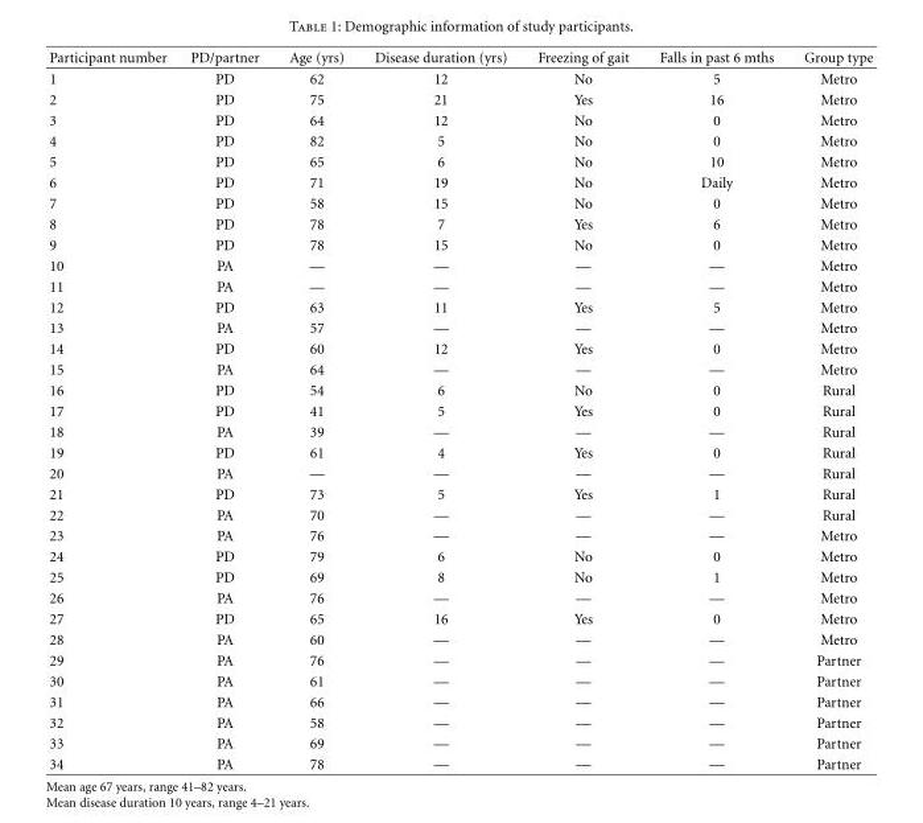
<table><thead><tr><td>Participant number</td><td>PD/partner</td><td>Age (yrs)</td><td>Disease duration (yrs)</td><td>Freezing of gait</td><td>Falls in past 6 mths</td><td>Group type</td></tr></thead><tbody><tr><td>1</td><td>PD</td><td>62</td><td>12</td><td>No</td><td>5</td><td>Metro</td></tr><tr><td>2</td><td>PD</td><td>75</td><td>21</td><td>Yes</td><td>16</td><td>Metro</td></tr><tr><td>3</td><td>PD</td><td>64</td><td>12</td><td>No</td><td>0</td><td>Metro</td></tr><tr><td>4</td><td>PD</td><td>82</td><td>5</td><td>No</td><td>0</td><td>Metro</td></tr><tr><td>5</td><td>PD</td><td>65</td><td>6</td><td>No</td><td>10</td><td>Metro</td></tr><tr><td>6</td><td>PD</td><td>71</td><td>19</td><td>No</td><td>Daily</td><td>Metro</td></tr><tr><td>7</td><td>PD</td><td>58</td><td>15</td><td>No</td><td>0</td><td>Metro</td></tr><tr><td>8</td><td>PD</td><td>78</td><td>7</td><td>Yes</td><td>6</td><td>Metro</td></tr><tr><td>9</td><td>PD</td><td>78</td><td>15</td><td>No</td><td>0</td><td>Metro</td></tr><tr><td>10</td><td>PA</td><td>—</td><td>—</td><td>—</td><td>—</td><td>Metro</td></tr><tr><td>11</td><td>PA</td><td>—</td><td>—</td><td>—</td><td>—</td><td>Metro</td></tr><tr><td>12</td><td>PD</td><td>63</td><td>11</td><td>Yes</td><td>5</td><td>Metro</td></tr><tr><td>13</td><td>PA</td><td>57</td><td>—</td><td>—</td><td>—</td><td>Metro</td></tr><tr><td>14</td><td>PD</td><td>60</td><td>12</td><td>Yes</td><td>0</td><td>Metro</td></tr><tr><td>15</td><td>PA</td><td>64</td><td>—</td><td>—</td><td>—</td><td>Metro</td></tr><tr><td>16</td><td>PD</td><td>54</td><td>6</td><td>No</td><td>0</td><td>Rural</td></tr><tr><td>17</td><td>PD</td><td>41</td><td>5</td><td>Yes</td><td>0</td><td>Rural</td></tr><tr><td>18</td><td>PA</td><td>39</td><td>—</td><td>—</td><td>—</td><td>Rural</td></tr><tr><td>19</td><td>PD</td><td>61</td><td>4</td><td>Yes</td><td>0</td><td>Rural</td></tr><tr><td>20</td><td>PA</td><td>—</td><td>—</td><td>—</td><td>—</td><td>Rural</td></tr><tr><td>21</td><td>PD</td><td>73</td><td>5</td><td>Yes</td><td>1</td><td>Rural</td></tr><tr><td>22</td><td>PA</td><td>70</td><td>—</td><td>—</td><td>—</td><td>Rural</td></tr><tr><td>23</td><td>PA</td><td>76</td><td>—</td><td>—</td><td>—</td><td>Metro</td></tr><tr><td>24</td><td>PD</td><td>79</td><td>6</td><td>No</td><td>0</td><td>Metro</td></tr><tr><td>25</td><td>PD</td><td>69</td><td>8</td><td>No</td><td>1</td><td>Metro</td></tr><tr><td>26</td><td>PA</td><td>76</td><td>—</td><td>—</td><td>—</td><td>Metro</td></tr><tr><td>27</td><td>PD</td><td>65</td><td>16</td><td>Yes</td><td>0</td><td>Metro</td></tr><tr><td>28</td><td>PA</td><td>60</td><td>—</td><td>—</td><td>—</td><td>Metro</td></tr><tr><td>29</td><td>PA</td><td>76</td><td>—</td><td>—</td><td>—</td><td>Partner</td></tr><tr><td>30</td><td>PA</td><td>61</td><td>—</td><td>—</td><td>—</td><td>Partner</td></tr><tr><td>31</td><td>PA</td><td>66</td><td>—</td><td>—</td><td>—</td><td>Partner</td></tr><tr><td>32</td><td>PA</td><td>58</td><td>—</td><td>—</td><td>—</td><td>Partner</td></tr><tr><td>33</td><td>PA</td><td>69</td><td>—</td><td>—</td><td>—</td><td>Partner</td></tr><tr><td>34</td><td>PA</td><td>78</td><td>—</td><td>—</td><td>—</td><td>Partner</td></tr></tbody></table>